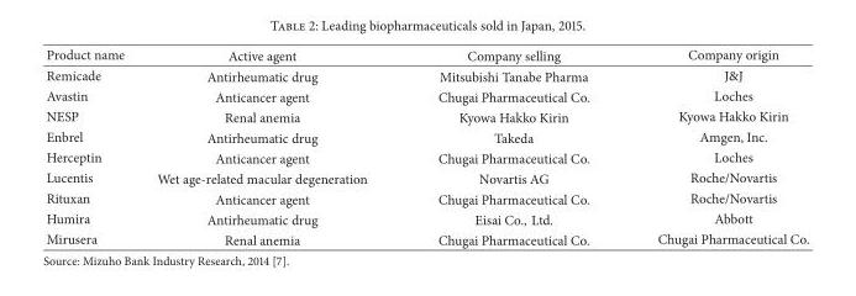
<table><thead><tr><td>Product name</td><td>Active agent</td><td>Company selling</td><td>Company origin</td></tr></thead><tbody><tr><td>Remicade</td><td>Antirheumatic drug</td><td>Mitsubishi Tanabe Pharma</td><td>J&amp;J</td></tr><tr><td>Avastin</td><td>Anticancer agent</td><td>Chugai Pharmaceutical Co.</td><td>Loches</td></tr><tr><td>NESP</td><td>Renal anemia</td><td>Kyowa Hakko Kirin</td><td>Kyowa Hakko Kirin</td></tr><tr><td>Enbrel</td><td>Antirheumatic drug</td><td>Takeda</td><td>Amgen, Inc.</td></tr><tr><td>Herceptin</td><td>Anticancer agent</td><td>Chugai Pharmaceutical Co.</td><td>Loches</td></tr><tr><td>Lucentis</td><td>Wet age-related macular degeneration</td><td>Novartis AG</td><td>Roche/Novartis</td></tr><tr><td>Rituxan</td><td>Anticancer agent</td><td>Chugai Pharmaceutical Co.</td><td>Roche/Novartis</td></tr><tr><td>Humira</td><td>Antirheumatic drug</td><td>Eisai Co., Ltd.</td><td>Abbott</td></tr><tr><td>Mirusera</td><td>Renal anemia</td><td>Chugai Pharmaceutical Co.</td><td>Chugai Pharmaceutical Co.</td></tr></tbody></table>